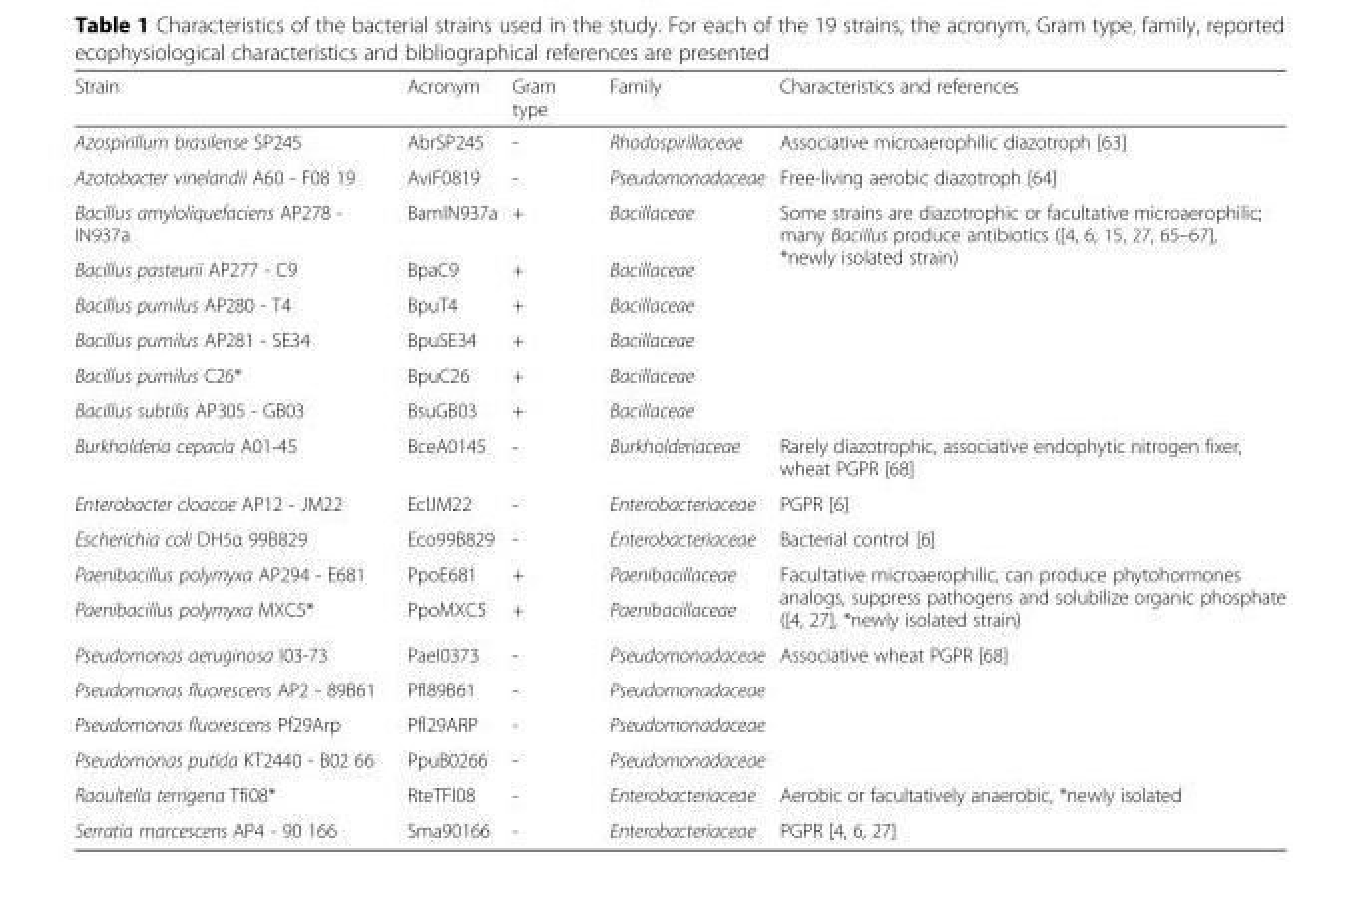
<table><thead><tr><td>Strain</td><td>Acronym</td><td>Gram type</td><td>Family</td><td>Characteristics and references</td></tr></thead><tbody><tr><td>Azospirillum brasilense SP245</td><td>AbrSP245</td><td>-</td><td>Rhodospirillaceae</td><td>Associative microaerophilic diazotroph [63]</td></tr><tr><td>Azotobacter vinelandii A60 - F08 19</td><td>AviF0819</td><td>-</td><td>Pseudomonadaceae</td><td>Free-living aerobic diazotroph [64]</td></tr><tr><td>Bacillus amyloliquefaciens AP278 - IN937a</td><td>BamIN937a</td><td>+</td><td>Bacillaceae</td><td rowspan="6">Some strains are diazotrophic or facultative microaerophilic; many Bacillus produce antibiotics ([4, 6, 15, 27, 65–67], *newly isolated strain)</td></tr><tr><td>Bacillus pasteurii AP277 - C9</td><td>BpaC9</td><td>+</td><td>Bacillaceae</td></tr><tr><td>Bacillus pumilus AP280 - T4</td><td>BpuT4</td><td>+</td><td>Bacillaceae</td></tr><tr><td>Bacillus pumilus AP281 - SE34</td><td>BpuSE34</td><td>+</td><td>Bacillaceae</td></tr><tr><td>Bacillus pumilus C26*</td><td>BpuC26</td><td>+</td><td>Bacillaceae</td></tr><tr><td>Bacillus subtilis AP305 - GB03</td><td>BsuGB03</td><td>+</td><td>Bacillaceae</td></tr><tr><td>Burkholderia cepacia A01-45</td><td>BceA0145</td><td>-</td><td>Burkholderiaceae</td><td>Rarely diazotrophic, associative endophytic nitrogen fixer, wheat PGPR [68]</td></tr><tr><td>Enterobacter cloacae AP12 - JM22</td><td>EclJM22</td><td>-</td><td>Enterobacteriaceae</td><td>PGPR [6]</td></tr><tr><td>Escherichia coli DH5α 99B829</td><td>Eco99B829</td><td>-</td><td>Enterobacteriaceae</td><td>Bacterial control [6]</td></tr><tr><td>Paenibacillus polymyxa AP294 - E681</td><td>PpoE681</td><td>+</td><td>Paenibacillaceae</td><td rowspan="2">Facultative microaerophilic, can produce phytohormones analogs, suppress pathogens and solubilize organic phosphate ([4, 27], *newly isolated strain)</td></tr><tr><td>Paenibacillus polymyxa MXC5*</td><td>PpoMXC5</td><td>+</td><td>Paenibacillaceae</td></tr><tr><td>Pseudomonas aeruginosa I03-73</td><td>PaeI0373</td><td>-</td><td>Pseudomonadaceae</td><td rowspan="4">Associative wheat PGPR [68]</td></tr><tr><td>Pseudomonas fluorescens AP2 - 89B61</td><td>Pfl89B61</td><td>-</td><td>Pseudomonadaceae</td></tr><tr><td>Pseudomonas fluorescens Pf29Arp</td><td>Pfl29ARP</td><td>-</td><td>Pseudomonadaceae</td></tr><tr><td>Pseudomonas putida KT2440 - B02 66</td><td>PpuB0266</td><td>-</td><td>Pseudomonadaceae</td></tr><tr><td>Raoultella terrigena Tfi08*</td><td>RteTFI08</td><td>-</td><td>Enterobacteriaceae</td><td>Aerobic or facultatively anaerobic, *newly isolated</td></tr><tr><td>Serratia marcescens AP4 - 90 166</td><td>Sma90166</td><td>-</td><td>Enterobacteriaceae</td><td>PGPR [4, 6, 27]</td></tr></tbody></table>